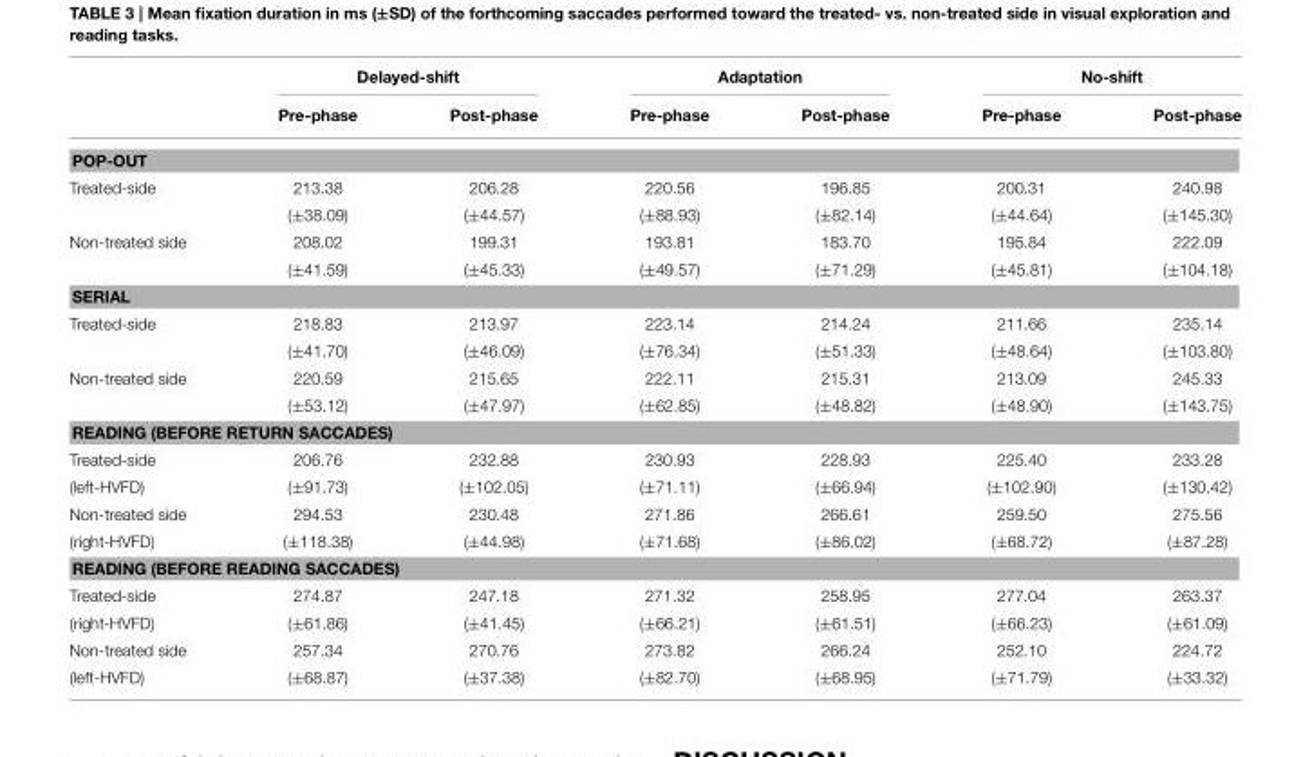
<table><thead><tr><td rowspan="2"></td><td colspan="2">Delayed-shift</td><td colspan="2">Adaptation</td><td colspan="2">No-shift</td></tr><tr><td>Pre-phase</td><td>Post-phase</td><td>Pre-phase</td><td>Post-phase</td><td>Pre-phase</td><td>Post-phase</td></tr></thead><tbody><tr><td colspan="7">POP-OUT</td></tr><tr><td rowspan="2">Treated-side</td><td>213.38</td><td>206.28</td><td>220.56</td><td>196.85</td><td>200.31</td><td>240.98</td></tr><tr><td>(±38.09)</td><td>(±44.57)</td><td>(±88.93)</td><td>(±82.14)</td><td>(±44.64)</td><td>(±145.30)</td></tr><tr><td rowspan="2">Non-treated side</td><td>208.02</td><td>199.31</td><td>193.81</td><td>183.70</td><td>195.84</td><td>222.09</td></tr><tr><td>(±41.59)</td><td>(±45.33)</td><td>(±49.57)</td><td>(±71.29)</td><td>(±45.81)</td><td>(±104.18)</td></tr><tr><td colspan="7">SERIAL</td></tr><tr><td rowspan="2">Treated-side</td><td>218.83</td><td>213.97</td><td>223.14</td><td>214.24</td><td>211.66</td><td>235.14</td></tr><tr><td>(±41.70)</td><td>(±46.09)</td><td>(±76.34)</td><td>(±51.33)</td><td>(±48.64)</td><td>(±103.80)</td></tr><tr><td rowspan="2">Non-treated side</td><td>220.59</td><td>215.65</td><td>222.11</td><td>215.31</td><td>213.09</td><td>245.33</td></tr><tr><td>(±53.12)</td><td>(±47.97)</td><td>(±62.85)</td><td>(±48.82)</td><td>(±48.90)</td><td>(±143.75)</td></tr><tr><td colspan="7">READING (BEFORE RETURN SACCADES)</td></tr><tr><td>Treated-side</td><td>206.76</td><td>232.88</td><td>230.93</td><td>228.93</td><td>225.40</td><td>233.28</td></tr><tr><td>(left-HVFD)</td><td>(±91.73)</td><td>(±102.05)</td><td>(±71.11)</td><td>(±66.94)</td><td>(±102.90)</td><td>(±130.42)</td></tr><tr><td>Non-treated side</td><td>294.53</td><td>230.48</td><td>271.86</td><td>266.61</td><td>259.50</td><td>275.56</td></tr><tr><td>(right-HVFD)</td><td>(±118.38)</td><td>(±44.98)</td><td>(±71.68)</td><td>(±86.02)</td><td>(±68.72)</td><td>(±87.28)</td></tr><tr><td colspan="7">READING (BEFORE READING SACCADES)</td></tr><tr><td>Treated-side</td><td>274.87</td><td>247.18</td><td>271.32</td><td>258.95</td><td>277.04</td><td>263.37</td></tr><tr><td>(right-HVFD)</td><td>(±61.86)</td><td>(±41.45)</td><td>(±66.21)</td><td>(±61.51)</td><td>(±66.23)</td><td>(±61.09)</td></tr><tr><td>Non-treated side</td><td>257.34</td><td>270.76</td><td>273.82</td><td>266.24</td><td>252.10</td><td>224.72</td></tr><tr><td>(left-HVFD)</td><td>(±68.87)</td><td>(±37.38)</td><td>(±82.70)</td><td>(±68.95)</td><td>(±71.79)</td><td>(±33.32)</td></tr></tbody></table>